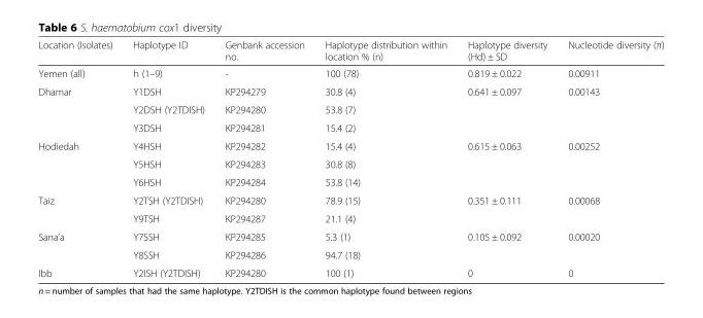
<table><thead><tr><td>Location (Isolates)</td><td>Haplotype ID</td><td>Genbank accession no.</td><td>Haplotype distribution within location % (n)</td><td>Haplotype diversity (Hd) ± SD</td><td>Nucleotide diversity (π)</td></tr></thead><tbody><tr><td>Yemen (all)</td><td>h (1–9)</td><td>-</td><td>100 (78)</td><td>0.819 ± 0.022</td><td>0.00911</td></tr><tr><td rowspan="3">Dhamar</td><td>Y1DSH</td><td>KP294279</td><td>30.8 (4)</td><td rowspan="3">0.641 ± 0.097</td><td rowspan="3">0.00143</td></tr><tr><td>Y2DSH (Y2TDISH)</td><td>KP294280</td><td>53.8 (7)</td></tr><tr><td>Y3DSH</td><td>KP294281</td><td>15.4 (2)</td></tr><tr><td rowspan="3">Hodiedah</td><td>Y4HSH</td><td>KP294282</td><td>15.4 (4)</td><td rowspan="3">0.615 ± 0.063</td><td rowspan="3">0.00252</td></tr><tr><td>Y5HSH</td><td>KP294283</td><td>30.8 (8)</td></tr><tr><td>Y6HSH</td><td>KP294284</td><td>53.8 (14)</td></tr><tr><td rowspan="2">Taiz</td><td>Y2TSH (Y2TDISH)</td><td>KP294280</td><td>78.9 (15)</td><td rowspan="2">0.351 ± 0.111</td><td rowspan="2">0.00068</td></tr><tr><td>Y9TSH</td><td>KP294287</td><td>21.1 (4)</td></tr><tr><td rowspan="2">Sana’a</td><td>Y7SSH</td><td>KP294285</td><td>5.3 (1)</td><td rowspan="2">0.105 ± 0.092</td><td rowspan="2">0.00020</td></tr><tr><td>Y8SSH</td><td>KP294286</td><td>94.7 (18)</td></tr><tr><td>Ibb</td><td>Y2ISH (Y2TDISH)</td><td>KP294280</td><td>100 (1)</td><td>0</td><td>0</td></tr></tbody></table>